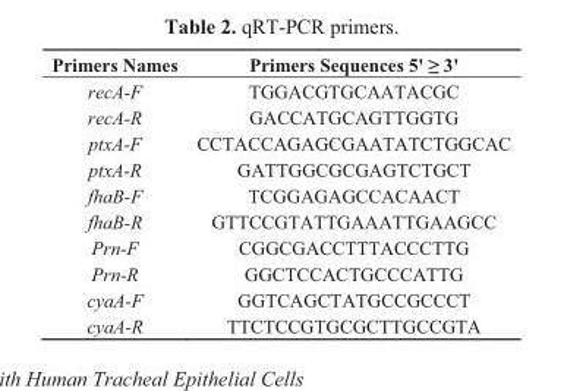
<table><thead><tr><td>Primers Names</td><td>Primers Sequences 5&#x27; ≥ 3&#x27;</td></tr></thead><tbody><tr><td>recA-F</td><td>TGGACGTGCAATACGC</td></tr><tr><td>recA-R</td><td>GACCATGCAGTTGGTG</td></tr><tr><td>ptxA-F</td><td>CCTACCAGAGCGAATATCTGGCAC</td></tr><tr><td>ptxA-R</td><td>GATTGGCGCGAGTCTGCT</td></tr><tr><td>fhaB-F</td><td>TCGGAGAGCCACAACT</td></tr><tr><td>fhaB-R</td><td>GTTCCGTATTGAAATTGAAGCC</td></tr><tr><td>Prn-F</td><td>CGGCGACCTTTACCCTTG</td></tr><tr><td>Prn-R</td><td>GGCTCCACTGCCCATTG</td></tr><tr><td>cyaA-F</td><td>GGTCAGCTATGCCGCCCT</td></tr><tr><td>cyaA-R</td><td>TTCTCCGTGCGCTTGCCGTA</td></tr></tbody></table>